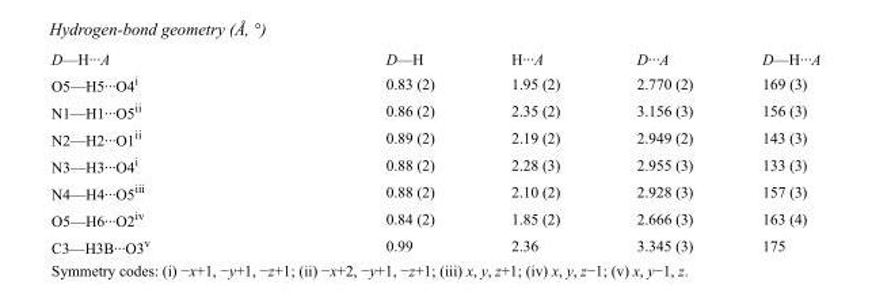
<table><tbody><tr><td>D—H···A</td><td>D—H</td><td>H···A</td><td>D···A</td><td>D—H···A</td></tr><tr><td>O5—H5···O4<sup>i</sup></td><td>0.83 (2)</td><td>1.95 (2)</td><td>2.770 (2)</td><td>169 (3)</td></tr><tr><td>N1—H1···O5<sup>ii</sup></td><td>0.86 (2)</td><td>2.35 (2)</td><td>3.156 (3)</td><td>156 (3)</td></tr><tr><td>N2—H2···O1<sup>ii</sup></td><td>0.89 (2)</td><td>2.19 (2)</td><td>2.949 (2)</td><td>143 (3)</td></tr><tr><td>N3—H3···O4<sup>i</sup></td><td>0.88 (2)</td><td>2.28 (3)</td><td>2.955 (3)</td><td>133 (3)</td></tr><tr><td>N4—H4···O5<sup>iii</sup></td><td>0.88 (2)</td><td>2.10 (2)</td><td>2.928 (3)</td><td>157 (3)</td></tr><tr><td>O5—H6···O2<sup>iv</sup></td><td>0.84 (2)</td><td>1.85 (2)</td><td>2.666 (3)</td><td>163 (4)</td></tr><tr><td>C3—H3B···O3<sup>v</sup></td><td>0.99</td><td>2.36</td><td>3.345 (3)</td><td>175</td></tr></tbody></table>